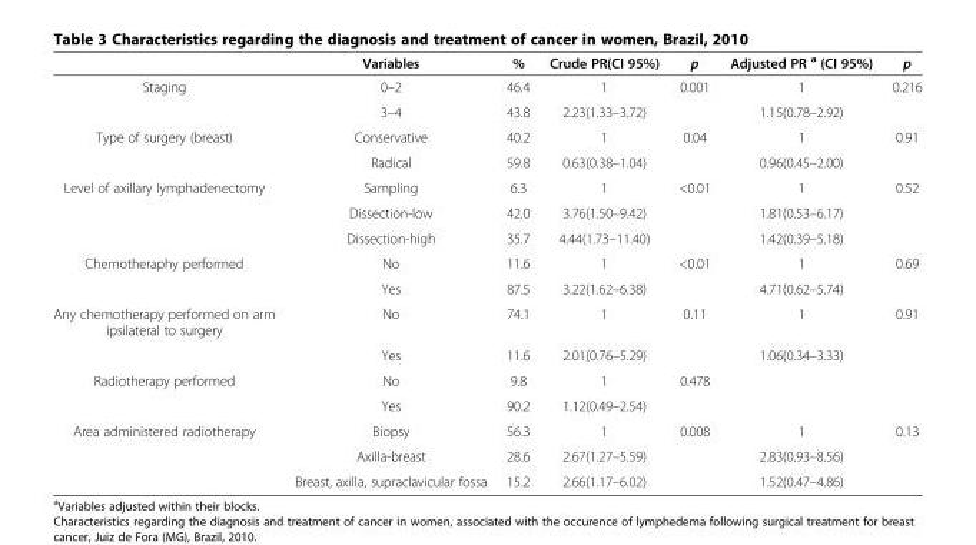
<table><thead><tr><td></td><td>Variables</td><td>%</td><td>Crude PR(CI 95%)</td><td>p</td><td>Adjusted PR <sup>a</sup> (CI 95%)</td><td>p</td></tr></thead><tbody><tr><td rowspan="2">Staging</td><td>0–2</td><td>46.4</td><td>1</td><td>0.001</td><td>1</td><td>0.216</td></tr><tr><td>3–4</td><td>43.8</td><td>2.23(1.33–3.72)</td><td></td><td>1.15(0.78–2.92)</td><td></td></tr><tr><td rowspan="2">Type of surgery (breast)</td><td>Conservative</td><td>40.2</td><td>1</td><td>0.04</td><td>1</td><td>0.91</td></tr><tr><td>Radical</td><td>59.8</td><td>0.63(0.38–1.04)</td><td></td><td>0.96(0.45–2.00)</td><td></td></tr><tr><td rowspan="3">Level of axillary lymphadenectomy</td><td>Sampling</td><td>6.3</td><td>1</td><td>&lt;0.01</td><td>1</td><td>0.52</td></tr><tr><td>Dissection-low</td><td>42.0</td><td>3.76(1.50–9.42)</td><td></td><td>1.81(0.53–6.17)</td><td></td></tr><tr><td>Dissection-high</td><td>35.7</td><td>4.44(1.73–11.40)</td><td></td><td>1.42(0.39–5.18)</td><td></td></tr><tr><td rowspan="2">Chemotheraphy performed</td><td>No</td><td>11.6</td><td>1</td><td>&lt;0.01</td><td>1</td><td>0.69</td></tr><tr><td>Yes</td><td>87.5</td><td>3.22(1.62–6.38)</td><td></td><td>4.71(0.62–5.74)</td><td></td></tr><tr><td rowspan="2">Any chemotherapy performed on arm ipsilateral to surgery</td><td>No</td><td>74.1</td><td>1</td><td>0.11</td><td>1</td><td>0.91</td></tr><tr><td>Yes</td><td>11.6</td><td>2.01(0.76–5.29)</td><td></td><td>1.06(0.34–3.33)</td><td></td></tr><tr><td rowspan="2">Radiotherapy performed</td><td>No</td><td>9.8</td><td>1</td><td>0.478</td><td></td><td></td></tr><tr><td>Yes</td><td>90.2</td><td>1.12(0.49–2.54)</td><td></td><td></td><td></td></tr><tr><td rowspan="3">Area administered radiotherapy</td><td>Biopsy</td><td>56.3</td><td>1</td><td>0.008</td><td>1</td><td>0.13</td></tr><tr><td>Axilla-breast</td><td>28.6</td><td>2.67(1.27–5.59)</td><td></td><td>2.83(0.93–8.56)</td><td></td></tr><tr><td>Breast, axilla, supraclavicular fossa</td><td>15.2</td><td>2.66(1.17–6.02)</td><td></td><td>1.52(0.47–4.86)</td><td></td></tr></tbody></table>